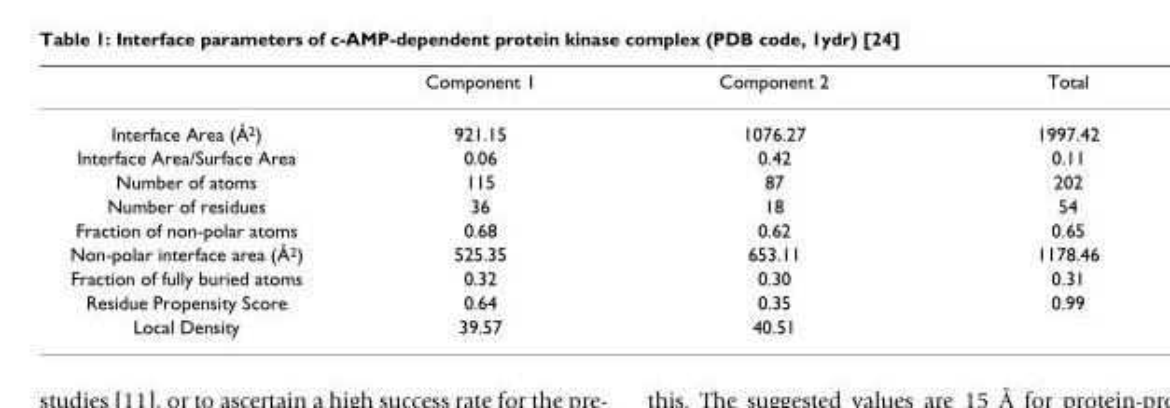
<table><thead><tr><td></td><td>Component 1</td><td>Component 2</td><td>Total</td></tr></thead><tbody><tr><td>Interface Area (Å2)</td><td>921.15</td><td>1076.27</td><td>1997.42</td></tr><tr><td>Interface Area/Surface Area</td><td>0.06</td><td>0.42</td><td>0.11</td></tr><tr><td>Number of atoms</td><td>115</td><td>87</td><td>202</td></tr><tr><td>Number of residues</td><td>36</td><td>18</td><td>54</td></tr><tr><td>Fraction of non-polar atoms</td><td>0.68</td><td>0.62</td><td>0.65</td></tr><tr><td>Non-polar interface area (Å2)</td><td>525.35</td><td>653.11</td><td>1178.46</td></tr><tr><td>Fraction of fully buried atoms</td><td>0.32</td><td>0.30</td><td>0.31</td></tr><tr><td>Residue Propensity Score</td><td>0.64</td><td>0.35</td><td>0.99</td></tr><tr><td>Local Density</td><td>39.57</td><td>40.51</td><td></td></tr></tbody></table>